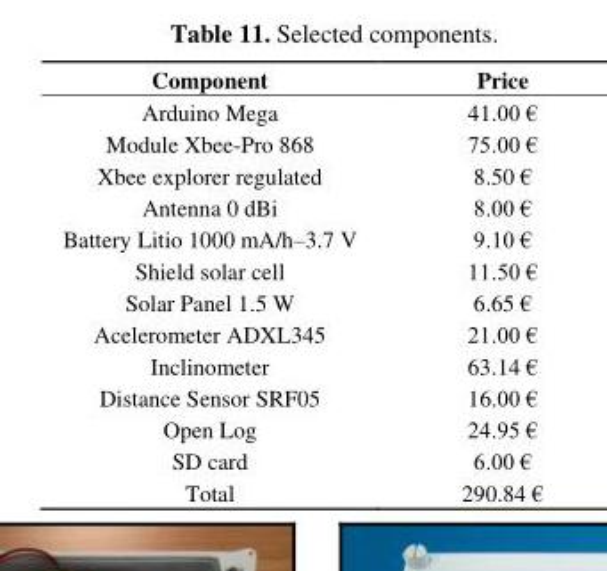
<table><thead><tr><td>Component</td><td>Price</td></tr></thead><tbody><tr><td>Arduino Mega</td><td>41.00 €</td></tr><tr><td>Module Xbee-Pro 868</td><td>75.00 €</td></tr><tr><td>Xbee explorer regulated</td><td>8.50 €</td></tr><tr><td>Antenna 0 dBi</td><td>8.00 €</td></tr><tr><td>Battery Litio 1000 mA/h–3.7 V</td><td>9.10 €</td></tr><tr><td>Shield solar cell</td><td>11.50 €</td></tr><tr><td>Solar Panel 1.5 W</td><td>6.65 €</td></tr><tr><td>Acelerometer ADXL345</td><td>21.00 €</td></tr><tr><td>Inclinometer</td><td>63.14 €</td></tr><tr><td>Distance Sensor SRF05</td><td>16.00 €</td></tr><tr><td>Open Log</td><td>24.95 €</td></tr><tr><td>SD card</td><td>6.00 €</td></tr><tr><td>Total</td><td>290.84 €</td></tr></tbody></table>